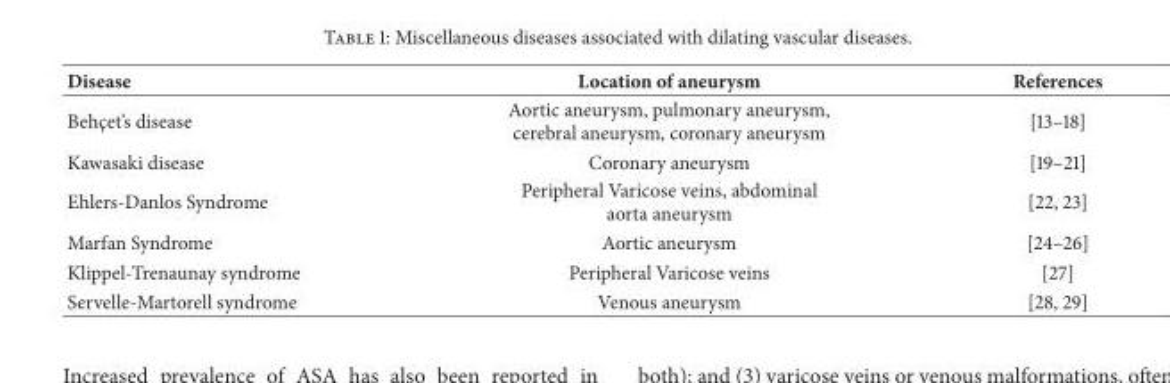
<table><thead><tr><td>Disease</td><td>Location of aneurysm</td><td>References</td></tr></thead><tbody><tr><td>Behc¸et’s disease</td><td>Aortic aneurysm, pulmonary aneurysm, cerebral aneurysm, coronary aneurysm</td><td>[13–18]</td></tr><tr><td>Kawasaki disease</td><td>Coronary aneurysm</td><td>[19–21]</td></tr><tr><td>Ehlers-Danlos Syndrome</td><td>Peripheral Varicose veins, abdominal aorta aneurysm</td><td>[22, 23]</td></tr><tr><td>Marfan Syndrome</td><td>Aortic aneurysm</td><td>[24–26]</td></tr><tr><td>Klippel-Trenaunay syndrome</td><td>Peripheral Varicose veins</td><td>[27]</td></tr><tr><td>Servelle-Martorell syndrome</td><td>Venous aneurysm</td><td>[28, 29]</td></tr></tbody></table>